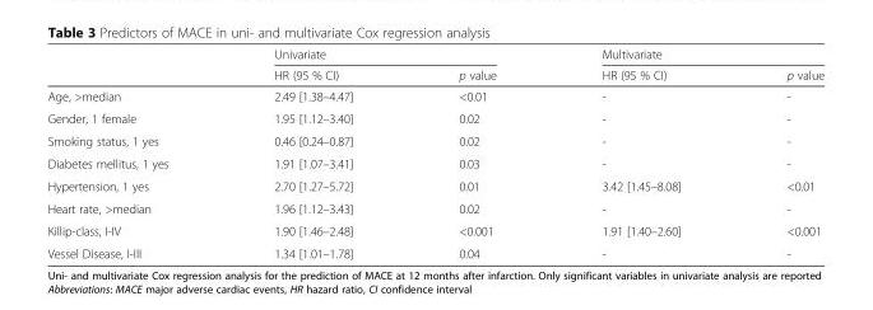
<table><thead><tr><td rowspan="2"></td><td colspan="2">Univariate</td><td colspan="2">Multivariate</td></tr><tr><td>HR (95 % CI)</td><td>p value</td><td>HR (95 % CI)</td><td>p value</td></tr></thead><tbody><tr><td>Age, &gt;median</td><td>2.49 [1.38–4.47]</td><td>&lt;0.01</td><td>-</td><td>-</td></tr><tr><td>Gender, 1 female</td><td>1.95 [1.12–3.40]</td><td>0.02</td><td>-</td><td>-</td></tr><tr><td>Smoking status, 1 yes</td><td>0.46 [0.24–0.87]</td><td>0.02</td><td>-</td><td>-</td></tr><tr><td>Diabetes mellitus, 1 yes</td><td>1.91 [1.07–3.41]</td><td>0.03</td><td>-</td><td>-</td></tr><tr><td>Hypertension, 1 yes</td><td>2.70 [1.27–5.72]</td><td>0.01</td><td>3.42 [1.45–8.08]</td><td>&lt;0.01</td></tr><tr><td>Heart rate, &gt;median</td><td>1.96 [1.12–3.43]</td><td>0.02</td><td>-</td><td>-</td></tr><tr><td>Killip-class, I-IV</td><td>1.90 [1.46–2.48]</td><td>&lt;0.001</td><td>1.91 [1.40–2.60]</td><td>&lt;0.001</td></tr><tr><td>Vessel Disease, I-III</td><td>1.34 [1.01–1.78]</td><td>0.04</td><td>-</td><td>-</td></tr></tbody></table>